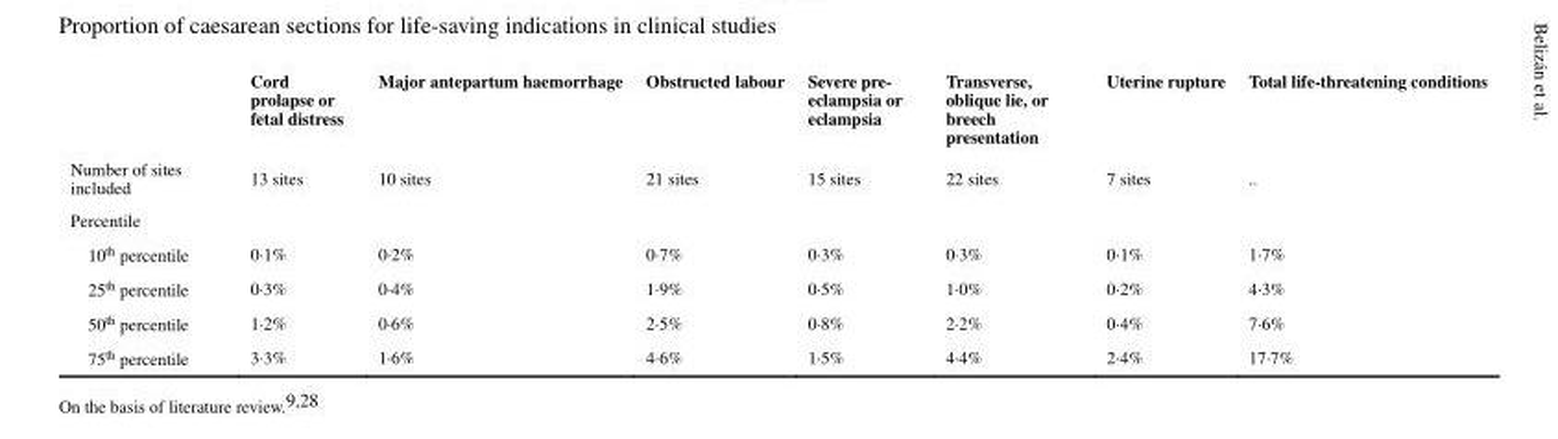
<table><thead><tr><td></td><td>Cord prolapse or fetal distress</td><td>Major antepartum haemorrhage</td><td>Obstructed labour</td><td>Severe pre- eclampsia or eclampsia</td><td>Transverse, oblique lie, or breech presentation</td><td>Uterine rupture</td><td>Total life-threatening conditions</td></tr></thead><tbody><tr><td>Number of sites included</td><td>13 sites</td><td>10 sites</td><td>21 sites</td><td>15 sites</td><td>22 sites</td><td>7 sites</td><td>..</td></tr><tr><td colspan="8">Percentile</td></tr><tr><td>10<sup>th</sup> percentile</td><td>0·1%</td><td>0·2%</td><td>0·7%</td><td>0·3%</td><td>0·3%</td><td>0·1%</td><td>1·7%</td></tr><tr><td>25<sup>th</sup> percentile</td><td>0·3%</td><td>0·4%</td><td>1·9%</td><td>0·5%</td><td>1·0%</td><td>0·2%</td><td>4·3%</td></tr><tr><td>50<sup>th</sup> percentile</td><td>1·2%</td><td>0·6%</td><td>2·5%</td><td>0·8%</td><td>2·2%</td><td>0·4%</td><td>7·6%</td></tr><tr><td>75<sup>th</sup> percentile</td><td>3·3%</td><td>1·6%</td><td>4·6%</td><td>1·5%</td><td>4·4%</td><td>2·4%</td><td>17·7%</td></tr></tbody></table>